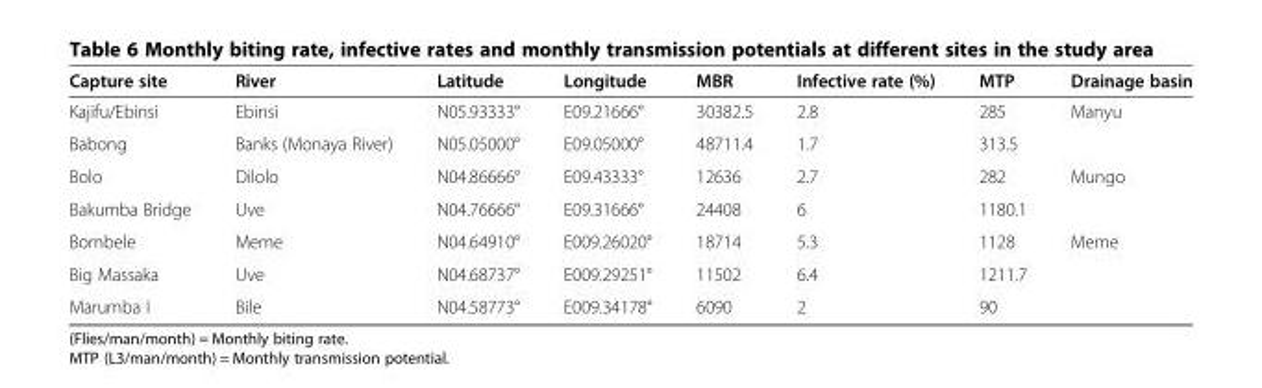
<table><thead><tr><td>Capture site</td><td>River</td><td>Latitude</td><td>Longitude</td><td>MBR</td><td>Infective rate (%)</td><td>MTP</td><td>Drainage basin</td></tr></thead><tbody><tr><td>Kajifu/Ebinsi</td><td>Ebinsi</td><td>N05.93333°</td><td>E09.21666°</td><td>30382.5</td><td>2.8</td><td>285</td><td rowspan="2">Manyu</td></tr><tr><td>Babong</td><td>Banks (Monaya River)</td><td>N05.05000°</td><td>E09.05000°</td><td>48711.4</td><td>1.7</td><td>313.5</td></tr><tr><td>Bolo</td><td>Dilolo</td><td>N04.86666°</td><td>E09.43333°</td><td>12636</td><td>2.7</td><td>282</td><td rowspan="2">Mungo</td></tr><tr><td>Bakumba Bridge</td><td>Uve</td><td>N04.76666°</td><td>E09.31666°</td><td>24408</td><td>6</td><td>1180.1</td></tr><tr><td>Bombele</td><td>Meme</td><td>N04.64910°</td><td>E009.26020°</td><td>18714</td><td>5.3</td><td>1128</td><td rowspan="3">Meme</td></tr><tr><td>Big Massaka</td><td>Uve</td><td>N04.68737°</td><td>E009.29251°</td><td>11502</td><td>6.4</td><td>1211.7</td></tr><tr><td>Marumba I</td><td>Bile</td><td>N04.58773°</td><td>E009.34178°</td><td>6090</td><td>2</td><td>90</td></tr></tbody></table>